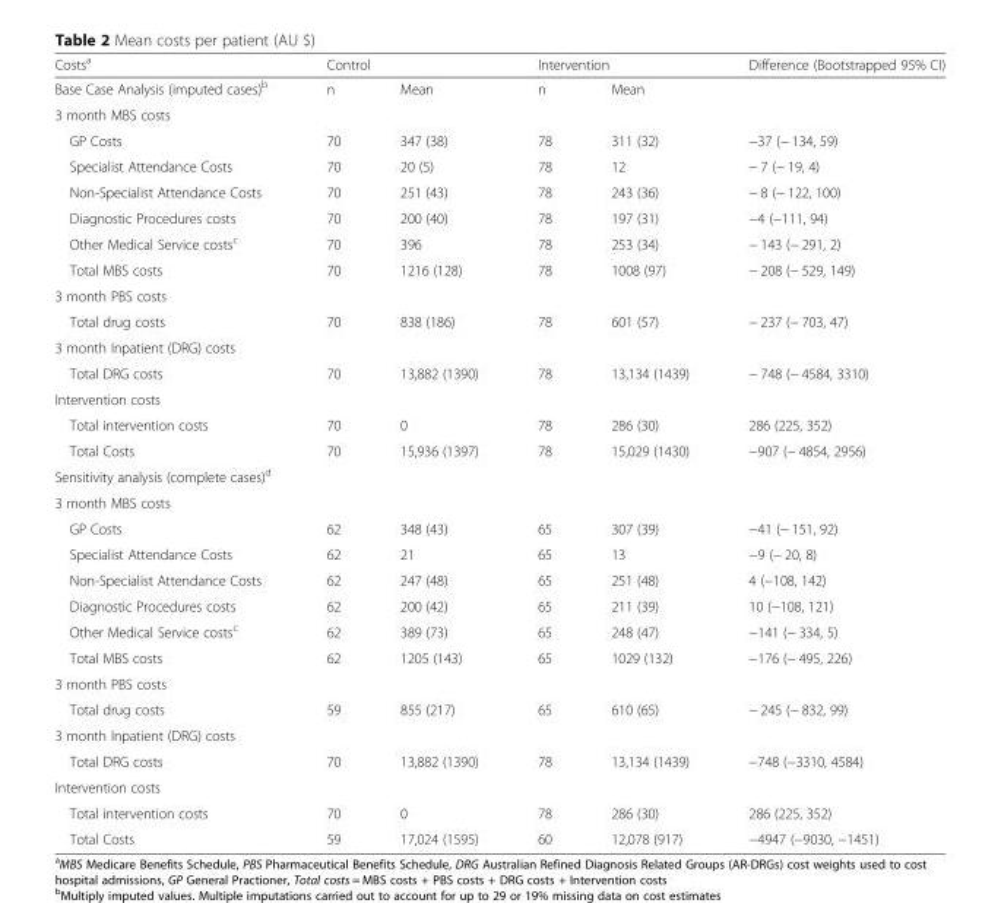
<table><thead><tr><td rowspan="2">Costs<sup>a</sup> Base Case Analysis (imputed cases)<sup>b</sup></td><td colspan="2">Control</td><td colspan="2">Intervention</td><td rowspan="2">Difference (Bootstrapped 95% CI)</td></tr><tr><td>n</td><td>Mean</td><td>n</td><td>Mean</td></tr></thead><tbody><tr><td colspan="6">3 month MBS costs</td></tr><tr><td>GP Costs</td><td>70</td><td>347 (38)</td><td>78</td><td>311 (32)</td><td>−37 (− 134, 59)</td></tr><tr><td>Specialist Attendance Costs</td><td>70</td><td>20 (5)</td><td>78</td><td>12</td><td>− 7 (− 19, 4)</td></tr><tr><td>Non-Specialist Attendance Costs</td><td>70</td><td>251 (43)</td><td>78</td><td>243 (36)</td><td>− 8 (− 122, 100)</td></tr><tr><td>Diagnostic Procedures costs</td><td>70</td><td>200 (40)</td><td>78</td><td>197 (31)</td><td>−4 (−111, 94)</td></tr><tr><td>Other Medical Service costs<sup>c</sup></td><td>70</td><td>396</td><td>78</td><td>253 (34)</td><td>− 143 (− 291, 2)</td></tr><tr><td>Total MBS costs</td><td>70</td><td>1216 (128)</td><td>78</td><td>1008 (97)</td><td>− 208 (− 529, 149)</td></tr><tr><td colspan="6">3 month PBS costs</td></tr><tr><td>Total drug costs</td><td>70</td><td>838 (186)</td><td>78</td><td>601 (57)</td><td>− 237 (− 703, 47)</td></tr><tr><td colspan="6">3 month Inpatient (DRG) costs</td></tr><tr><td>Total DRG costs</td><td>70</td><td>13,882 (1390)</td><td>78</td><td>13,134 (1439)</td><td>− 748 (− 4584, 3310)</td></tr><tr><td colspan="6">Intervention costs</td></tr><tr><td>Total intervention costs</td><td>70</td><td>0</td><td>78</td><td>286 (30)</td><td>286 (225, 352)</td></tr><tr><td>Total Costs</td><td>70</td><td>15,936 (1397)</td><td>78</td><td>15,029 (1430)</td><td>−907 (− 4854, 2956)</td></tr><tr><td colspan="6">Sensitivity analysis (complete cases)<sup>d</sup></td></tr><tr><td colspan="6">3 month MBS costs</td></tr><tr><td>GP Costs</td><td>62</td><td>348 (43)</td><td>65</td><td>307 (39)</td><td>−41 (− 151, 92)</td></tr><tr><td>Specialist Attendance Costs</td><td>62</td><td>21</td><td>65</td><td>13</td><td>−9 (− 20, 8)</td></tr><tr><td>Non-Specialist Attendance Costs</td><td>62</td><td>247 (48)</td><td>65</td><td>251 (48)</td><td>4 (−108, 142)</td></tr><tr><td>Diagnostic Procedures costs</td><td>62</td><td>200 (42)</td><td>65</td><td>211 (39)</td><td>10 (−108, 121)</td></tr><tr><td>Other Medical Service costs<sup>c</sup></td><td>62</td><td>389 (73)</td><td>65</td><td>248 (47)</td><td>−141 (− 334, 5)</td></tr><tr><td>Total MBS costs</td><td>62</td><td>1205 (143)</td><td>65</td><td>1029 (132)</td><td>−176 (− 495, 226)</td></tr><tr><td colspan="6">3 month PBS costs</td></tr><tr><td>Total drug costs</td><td>59</td><td>855 (217)</td><td>65</td><td>610 (65)</td><td>− 245 (− 832, 99)</td></tr><tr><td colspan="6">3 month Inpatient (DRG) costs</td></tr><tr><td>Total DRG costs</td><td>70</td><td>13,882 (1390)</td><td>78</td><td>13,134 (1439)</td><td>−748 (−3310, 4584)</td></tr><tr><td colspan="6">Intervention costs</td></tr><tr><td>Total intervention costs</td><td>70</td><td>0</td><td>78</td><td>286 (30)</td><td>286 (225, 352)</td></tr><tr><td>Total Costs</td><td>59</td><td>17,024 (1595)</td><td>60</td><td>12,078 (917)</td><td>−4947 (−9030, −1451)</td></tr></tbody></table>